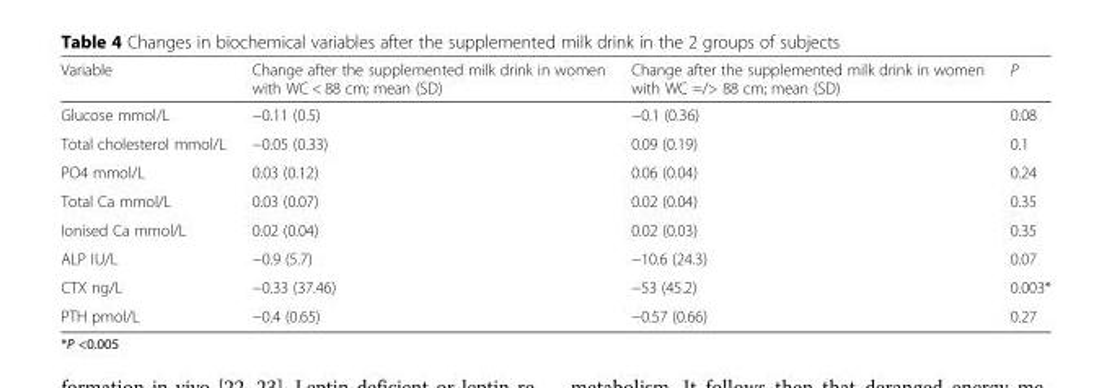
<table><thead><tr><td>Variable</td><td>Change after the supplemented milk drink in women with WC &lt; 88 cm; mean (SD)</td><td>Change after the supplemented milk drink in women with WC =/&gt; 88 cm; mean (SD)</td><td>P</td></tr></thead><tbody><tr><td>Glucose mmol/L</td><td>−0.11 (0.5)</td><td>−0.1 (0.36)</td><td>0.08</td></tr><tr><td>Total cholesterol mmol/L</td><td>−0.05 (0.33)</td><td>0.09 (0.19)</td><td>0.1</td></tr><tr><td>PO4 mmol/L</td><td>0.03 (0.12)</td><td>0.06 (0.04)</td><td>0.24</td></tr><tr><td>Total Ca mmol/L</td><td>0.03 (0.07)</td><td>0.02 (0.04)</td><td>0.35</td></tr><tr><td>Ionised Ca mmol/L</td><td>0.02 (0.04)</td><td>0.02 (0.03)</td><td>0.35</td></tr><tr><td>ALP IU/L</td><td>−0.9 (5.7)</td><td>−10.6 (24.3)</td><td>0.07</td></tr><tr><td>CTX ng/L</td><td>−0.33 (37.46)</td><td>−53 (45.2)</td><td>0.003*</td></tr><tr><td>PTH pmol/L</td><td>−0.4 (0.65)</td><td>−0.57 (0.66)</td><td>0.27</td></tr></tbody></table>